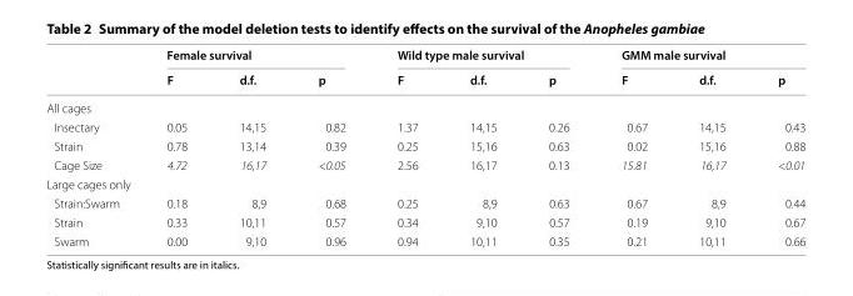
<table><thead><tr><td rowspan="2"></td><td colspan="3">Female survival</td><td colspan="3">Wild type male survival</td><td colspan="3">GMM male survival</td></tr><tr><td>F</td><td>d.f.</td><td>p</td><td>F</td><td>d.f.</td><td>p</td><td>F</td><td>d.f.</td><td>p</td></tr></thead><tbody><tr><td colspan="10">All cages</td></tr><tr><td>Insectary</td><td>0.05</td><td>14,15</td><td>0.82</td><td>1.37</td><td>14,15</td><td>0.26</td><td>0.67</td><td>14,15</td><td>0.43</td></tr><tr><td>Strain</td><td>0.78</td><td>13,14</td><td>0.39</td><td>0.25</td><td>15,16</td><td>0.63</td><td>0.02</td><td>15,16</td><td>0.88</td></tr><tr><td>Cage Size</td><td>4.72</td><td>16,17</td><td>&lt;0.05</td><td>2.56</td><td>16,17</td><td>0.13</td><td>15.81</td><td>16,17</td><td>&lt;0.01</td></tr><tr><td colspan="10">Large cages only</td></tr><tr><td>Strain:Swarm</td><td>0.18</td><td>8,9</td><td>0.68</td><td>0.25</td><td>8,9</td><td>0.63</td><td>0.67</td><td>8,9</td><td>0.44</td></tr><tr><td>Strain</td><td>0.33</td><td>10,11</td><td>0.57</td><td>0.34</td><td>9,10</td><td>0.57</td><td>0.19</td><td>9,10</td><td>0.67</td></tr><tr><td>Swarm</td><td>0.00</td><td>9,10</td><td>0.96</td><td>0.94</td><td>10,11</td><td>0.35</td><td>0.21</td><td>10,11</td><td>0.66</td></tr></tbody></table>